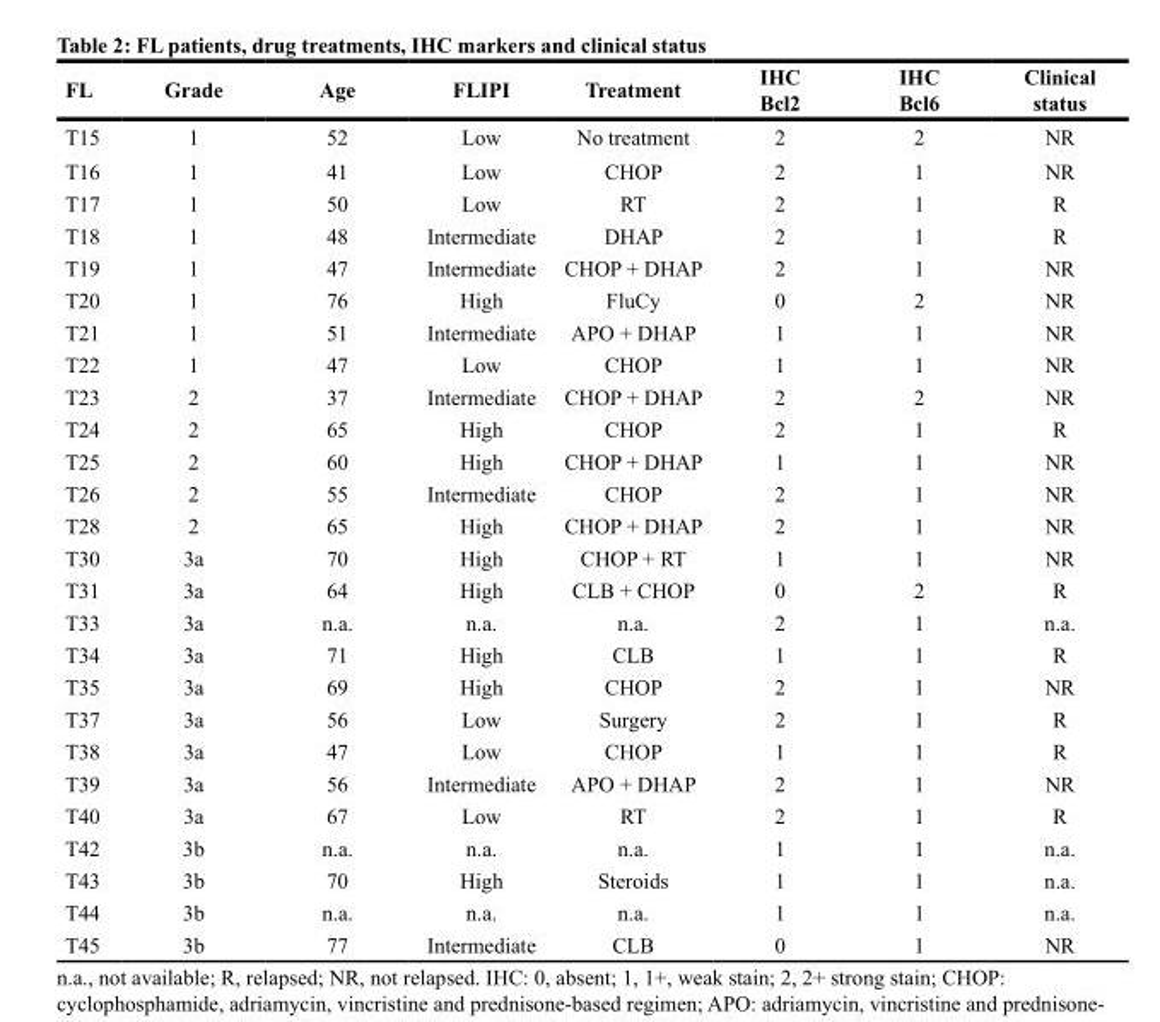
<table><thead><tr><td>FL</td><td>Grade</td><td>Age</td><td>FLIPI</td><td>Treatment</td><td>IHC Bcl2</td><td>IHC Bcl6</td><td>Clinical status</td></tr></thead><tbody><tr><td>T15</td><td>1</td><td>52</td><td>Low</td><td>No treatment</td><td>2</td><td>2</td><td>NR</td></tr><tr><td>T16</td><td>1</td><td>41</td><td>Low</td><td>CHOP</td><td>2</td><td>1</td><td>NR</td></tr><tr><td>T17</td><td>1</td><td>50</td><td>Low</td><td>RT</td><td>2</td><td>1</td><td>R</td></tr><tr><td>T18</td><td>1</td><td>48</td><td>Intermediate</td><td>DHAP</td><td>2</td><td>1</td><td>R</td></tr><tr><td>T19</td><td>1</td><td>47</td><td>Intermediate</td><td>CHOP + DHAP</td><td>2</td><td>1</td><td>NR</td></tr><tr><td>T20</td><td>1</td><td>76</td><td>High</td><td>FluCy</td><td>0</td><td>2</td><td>NR</td></tr><tr><td>T21</td><td>1</td><td>51</td><td>Intermediate</td><td>APO + DHAP</td><td>1</td><td>1</td><td>NR</td></tr><tr><td>T22</td><td>1</td><td>47</td><td>Low</td><td>CHOP</td><td>1</td><td>1</td><td>NR</td></tr><tr><td>T23</td><td>2</td><td>37</td><td>Intermediate</td><td>CHOP + DHAP</td><td>2</td><td>2</td><td>NR</td></tr><tr><td>T24</td><td>2</td><td>65</td><td>High</td><td>CHOP</td><td>2</td><td>1</td><td>R</td></tr><tr><td>T25</td><td>2</td><td>60</td><td>High</td><td>CHOP + DHAP</td><td>1</td><td>1</td><td>NR</td></tr><tr><td>T26</td><td>2</td><td>55</td><td>Intermediate</td><td>CHOP</td><td>2</td><td>1</td><td>NR</td></tr><tr><td>T28</td><td>2</td><td>65</td><td>High</td><td>CHOP + DHAP</td><td>2</td><td>1</td><td>NR</td></tr><tr><td>T30</td><td>3a</td><td>70</td><td>High</td><td>CHOP + RT</td><td>1</td><td>1</td><td>NR</td></tr><tr><td>T31</td><td>3a</td><td>64</td><td>High</td><td>CLB + CHOP</td><td>0</td><td>2</td><td>R</td></tr><tr><td>T33</td><td>3a</td><td>n.a.</td><td>n.a.</td><td>n.a.</td><td>2</td><td>1</td><td>n.a.</td></tr><tr><td>T34</td><td>3a</td><td>71</td><td>High</td><td>CLB</td><td>1</td><td>1</td><td>R</td></tr><tr><td>T35</td><td>3a</td><td>69</td><td>High</td><td>CHOP</td><td>2</td><td>1</td><td>NR</td></tr><tr><td>T37</td><td>3a</td><td>56</td><td>Low</td><td>Surgery</td><td>2</td><td>1</td><td>R</td></tr><tr><td>T38</td><td>3a</td><td>47</td><td>Low</td><td>CHOP</td><td>1</td><td>1</td><td>R</td></tr><tr><td>T39</td><td>3a</td><td>56</td><td>Intermediate</td><td>APO + DHAP</td><td>2</td><td>1</td><td>NR</td></tr><tr><td>T40</td><td>3a</td><td>67</td><td>Low</td><td>RT</td><td>2</td><td>1</td><td>R</td></tr><tr><td>T42</td><td>3b</td><td>n.a.</td><td>n.a.</td><td>n.a.</td><td>1</td><td>1</td><td>n.a.</td></tr><tr><td>T43</td><td>3b</td><td>70</td><td>High</td><td>Steroids</td><td>1</td><td>1</td><td>n.a.</td></tr><tr><td>T44</td><td>3b</td><td>n.a.</td><td>n.a.</td><td>n.a.</td><td>1</td><td>1</td><td>n.a.</td></tr><tr><td>T45</td><td>3b</td><td>77</td><td>Intermediate</td><td>CLB</td><td>0</td><td>1</td><td>NR</td></tr></tbody></table>